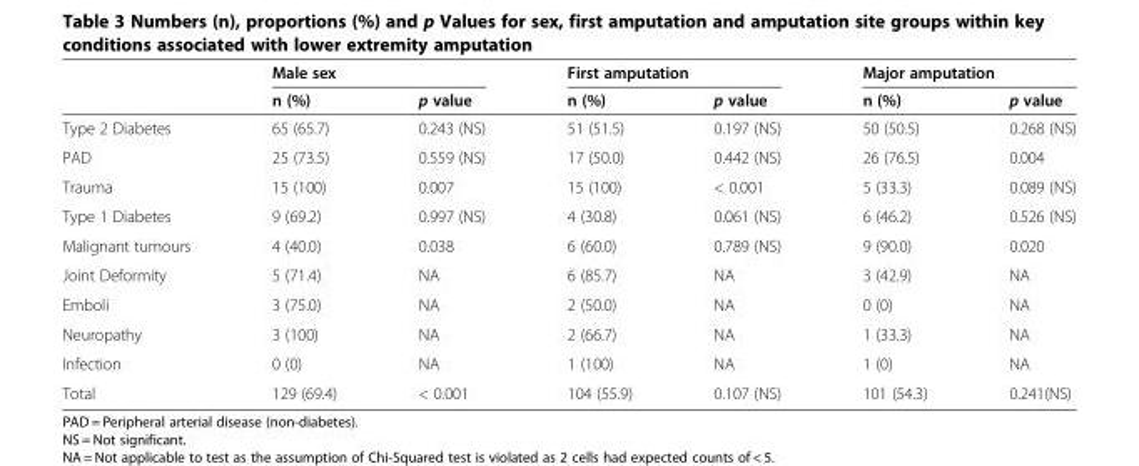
<table><thead><tr><td rowspan="2"></td><td colspan="2">Male sex</td><td colspan="2">First amputation</td><td colspan="2">Major amputation</td></tr><tr><td>n (%)</td><td>p value</td><td>n (%)</td><td>p value</td><td>n (%)</td><td>p value</td></tr></thead><tbody><tr><td>Type 2 Diabetes</td><td>65 (65.7)</td><td>0.243 (NS)</td><td>51 (51.5)</td><td>0.197 (NS)</td><td>50 (50.5)</td><td>0.268 (NS)</td></tr><tr><td>PAD</td><td>25 (73.5)</td><td>0.559 (NS)</td><td>17 (50.0)</td><td>0.442 (NS)</td><td>26 (76.5)</td><td>0.004</td></tr><tr><td>Trauma</td><td>15 (100)</td><td>0.007</td><td>15 (100)</td><td>&lt; 0.001</td><td>5 (33.3)</td><td>0.089 (NS)</td></tr><tr><td>Type 1 Diabetes</td><td>9 (69.2)</td><td>0.997 (NS)</td><td>4 (30.8)</td><td>0.061 (NS)</td><td>6 (46.2)</td><td>0.526 (NS)</td></tr><tr><td>Malignant tumours</td><td>4 (40.0)</td><td>0.038</td><td>6 (60.0)</td><td>0.789 (NS)</td><td>9 (90.0)</td><td>0.020</td></tr><tr><td>Joint Deformity</td><td>5 (71.4)</td><td>NA</td><td>6 (85.7)</td><td>NA</td><td>3 (42.9)</td><td>NA</td></tr><tr><td>Emboli</td><td>3 (75.0)</td><td>NA</td><td>2 (50.0)</td><td>NA</td><td>0 (0)</td><td>NA</td></tr><tr><td>Neuropathy</td><td>3 (100)</td><td>NA</td><td>2 (66.7)</td><td>NA</td><td>1 (33.3)</td><td>NA</td></tr><tr><td>Infection</td><td>0 (0)</td><td>NA</td><td>1 (100)</td><td>NA</td><td>1 (0)</td><td>NA</td></tr><tr><td>Total</td><td>129 (69.4)</td><td>&lt; 0.001</td><td>104 (55.9)</td><td>0.107 (NS)</td><td>101 (54.3)</td><td>0.241(NS)</td></tr></tbody></table>